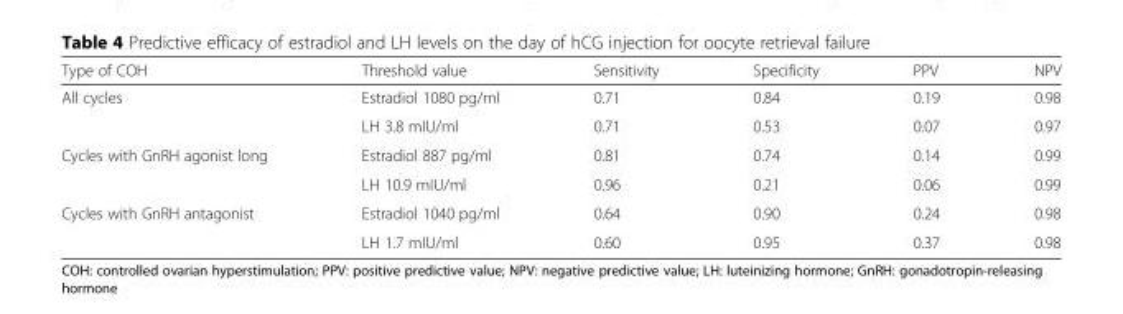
<table><thead><tr><td>Type of COH</td><td>Threshold value</td><td>Sensitivity</td><td>Specificity</td><td>PPV</td><td>NPV</td></tr></thead><tbody><tr><td rowspan="2">All cycles</td><td>Estradiol 1080 pg/ml</td><td>0.71</td><td>0.84</td><td>0.19</td><td>0.98</td></tr><tr><td>LH 3.8 mIU/ml</td><td>0.71</td><td>0.53</td><td>0.07</td><td>0.97</td></tr><tr><td rowspan="2">Cycles with GnRH agonist long</td><td>Estradiol 887 pg/ml</td><td>0.81</td><td>0.74</td><td>0.14</td><td>0.99</td></tr><tr><td>LH 10.9 mIU/ml</td><td>0.96</td><td>0.21</td><td>0.06</td><td>0.99</td></tr><tr><td rowspan="2">Cycles with GnRH antagonist</td><td>Estradiol 1040 pg/ml</td><td>0.64</td><td>0.90</td><td>0.24</td><td>0.98</td></tr><tr><td>LH 1.7 mIU/ml</td><td>0.60</td><td>0.95</td><td>0.37</td><td>0.98</td></tr></tbody></table>